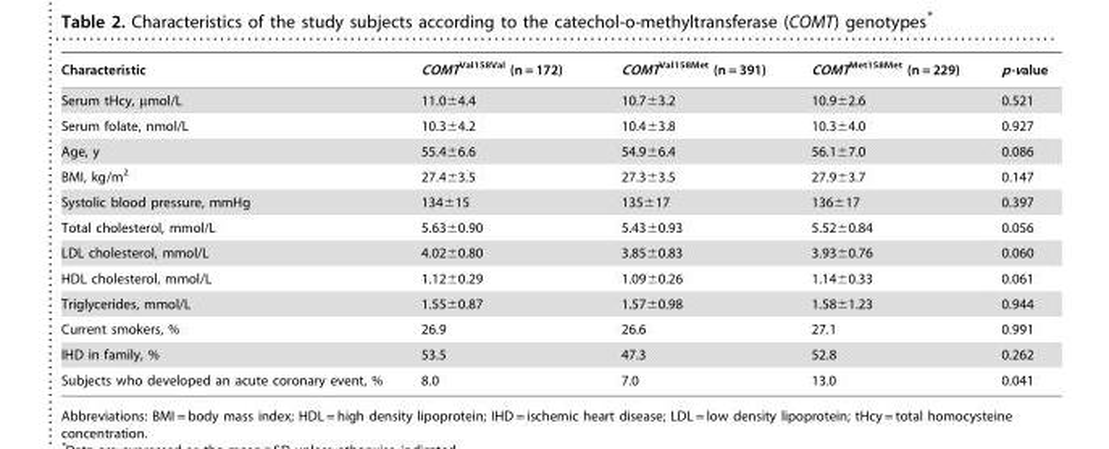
<table><thead><tr><td>Characteristic</td><td>COMT<sup>Val158Val</sup> (n = 172)</td><td>COMT<sup>Val158Met</sup> (n = 391)</td><td>COMT<sup>Met158Met</sup> (n = 229)</td><td>p-value</td></tr></thead><tbody><tr><td>Serum tHcy, µmol/L</td><td>11.0±4.4</td><td>10.7±3.2</td><td>10.9±2.6</td><td>0.521</td></tr><tr><td>Serum folate, nmol/L</td><td>10.3±4.2</td><td>10.4±3.8</td><td>10.3±4.0</td><td>0.927</td></tr><tr><td>Age, y</td><td>55.4±6.6</td><td>54.9±6.4</td><td>56.1±7.0</td><td>0.086</td></tr><tr><td>BMI, kg/m<sup>2</sup></td><td>27.4±3.5</td><td>27.3±3.5</td><td>27.9±3.7</td><td>0.147</td></tr><tr><td>Systolic blood pressure, mmHg</td><td>134±15</td><td>135±17</td><td>136±17</td><td>0.397</td></tr><tr><td>Total cholesterol, mmol/L</td><td>5.63±0.90</td><td>5.43±0.93</td><td>5.52±0.84</td><td>0.056</td></tr><tr><td>LDL cholesterol, mmol/L</td><td>4.02±0.80</td><td>3.85±0.83</td><td>3.93±0.76</td><td>0.060</td></tr><tr><td>HDL cholesterol, mmol/L</td><td>1.12±0.29</td><td>1.09±0.26</td><td>1.14±0.33</td><td>0.061</td></tr><tr><td>Triglycerides, mmol/L</td><td>1.55±0.87</td><td>1.57±0.98</td><td>1.58±1.23</td><td>0.944</td></tr><tr><td>Current smokers, %</td><td>26.9</td><td>26.6</td><td>27.1</td><td>0.991</td></tr><tr><td>IHD in family, %</td><td>53.5</td><td>47.3</td><td>52.8</td><td>0.262</td></tr><tr><td>Subjects who developed an acute coronary event, %</td><td>8.0</td><td>7.0</td><td>13.0</td><td>0.041</td></tr></tbody></table>